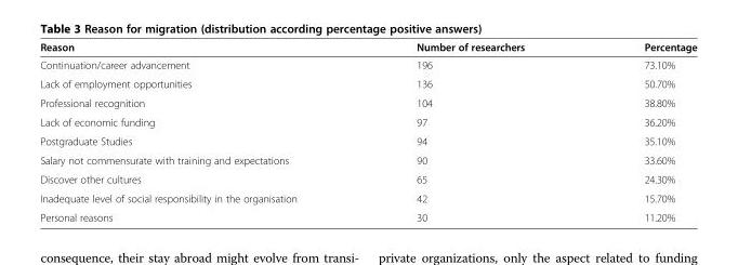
<table><thead><tr><td>Reason</td><td>Number of researchers</td><td>Percentage</td></tr></thead><tbody><tr><td>Continuation/career advancement</td><td>196</td><td>73.10%</td></tr><tr><td>Lack of employment opportunities</td><td>136</td><td>50.70%</td></tr><tr><td>Professional recognition</td><td>104</td><td>38.80%</td></tr><tr><td>Lack of economic funding</td><td>97</td><td>36.20%</td></tr><tr><td>Postgraduate Studies</td><td>94</td><td>35.10%</td></tr><tr><td>Salary not commensurate with training and expectations</td><td>90</td><td>33.60%</td></tr><tr><td>Discover other cultures</td><td>65</td><td>24.30%</td></tr><tr><td>Inadequate level of social responsibility in the organisation</td><td>42</td><td>15.70%</td></tr><tr><td>Personal reasons</td><td>30</td><td>11.20%</td></tr></tbody></table>